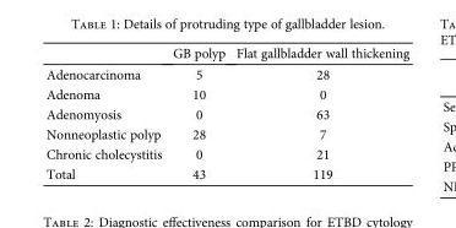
<table><thead><tr><td></td><td>GB polyp</td><td>Flat gallbladder wall thickening</td></tr></thead><tbody><tr><td>Adenocarcinoma</td><td>5</td><td>28</td></tr><tr><td>Adenoma</td><td>10</td><td>0</td></tr><tr><td>Adenomyosis</td><td>0</td><td>63</td></tr><tr><td>Nonneoplastic polyp</td><td>28</td><td>7</td></tr><tr><td>Chronic cholecystitis</td><td>0</td><td>21</td></tr><tr><td>Total</td><td>43</td><td>119</td></tr></tbody></table>